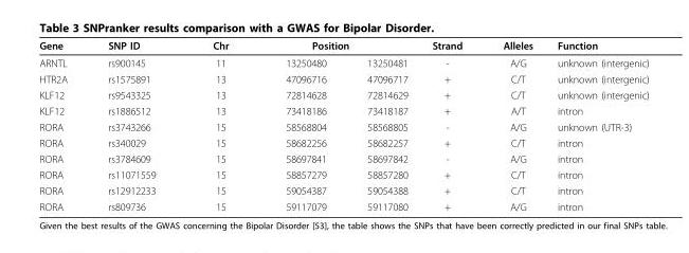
<table><thead><tr><td rowspan="2">Gene ARNTL</td><td rowspan="2">SNP ID rs900145</td><td rowspan="2">Chr 11</td><td colspan="2">Position</td><td rowspan="2">Strand -</td><td rowspan="2">Alleles A/G</td><td rowspan="2">Function unknown (intergenic)</td></tr><tr><td>13250480</td><td>13250481</td></tr></thead><tbody><tr><td>HTR2A</td><td>rs1575891</td><td>13</td><td>47096716</td><td>47096717</td><td>+</td><td>C/T</td><td>unknown (intergenic)</td></tr><tr><td>KLF12</td><td>rs9543325</td><td>13</td><td>72814628</td><td>72814629</td><td>+</td><td>C/T</td><td>unknown (intergenic)</td></tr><tr><td>KLF12</td><td>rs1886512</td><td>13</td><td>73418186</td><td>73418187</td><td>+</td><td>A/T</td><td>intron</td></tr><tr><td>RORA</td><td>rs3743266</td><td>15</td><td>58568804</td><td>58568805</td><td>-</td><td>A/G</td><td>unknown (UTR-3)</td></tr><tr><td>RORA</td><td>rs340029</td><td>15</td><td>58682256</td><td>58682257</td><td>+</td><td>C/T</td><td>intron</td></tr><tr><td>RORA</td><td>rs3784609</td><td>15</td><td>58697841</td><td>58697842</td><td>-</td><td>A/G</td><td>intron</td></tr><tr><td>RORA</td><td>rs11071559</td><td>15</td><td>58857279</td><td>58857280</td><td>+</td><td>C/T</td><td>intron</td></tr><tr><td>RORA</td><td>rs12912233</td><td>15</td><td>59054387</td><td>59054388</td><td>+</td><td>C/T</td><td>intron</td></tr><tr><td>RORA</td><td>rs809736</td><td>15</td><td>59117079</td><td>59117080</td><td>+</td><td>A/G</td><td>intron</td></tr></tbody></table>